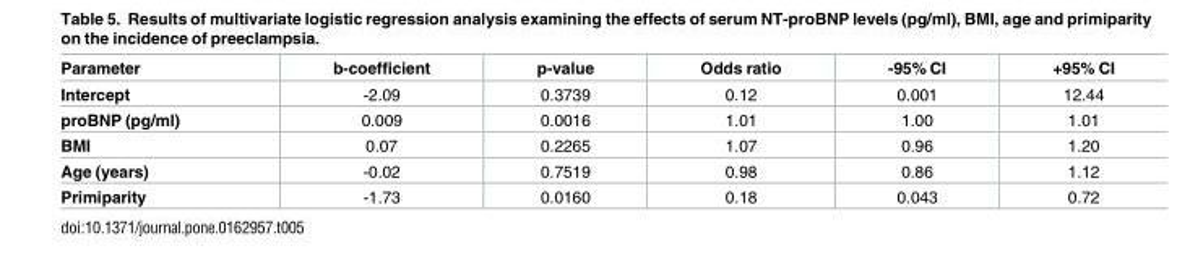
<table><thead><tr><td>Parameter</td><td>b-coefficient</td><td>p-value</td><td>Odds ratio</td><td>-95% CI</td><td>+95% CI</td></tr></thead><tbody><tr><td>Intercept</td><td>-2.09</td><td>0.3739</td><td>0.12</td><td>0.001</td><td>12.44</td></tr><tr><td>proBNP (pg/ml)</td><td>0.009</td><td>0.0016</td><td>1.01</td><td>1.00</td><td>1.01</td></tr><tr><td>BMI</td><td>0.07</td><td>0.2265</td><td>1.07</td><td>0.96</td><td>1.20</td></tr><tr><td>Age (years)</td><td>-0.02</td><td>0.7519</td><td>0.98</td><td>0.86</td><td>1.12</td></tr><tr><td>Primiparity</td><td>-1.73</td><td>0.0160</td><td>0.18</td><td>0.043</td><td>0.72</td></tr></tbody></table>